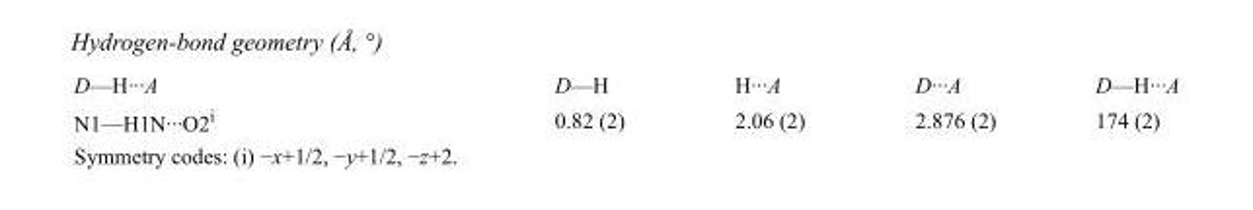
<table><tbody><tr><td>D—H···A</td><td>D—H</td><td>H···A</td><td>D···A</td><td>D—H···A</td></tr><tr><td>N1—H1N···O2<sup>i</sup></td><td>0.82 (2)</td><td>2.06 (2)</td><td>2.876 (2)</td><td>174 (2)</td></tr></tbody></table>